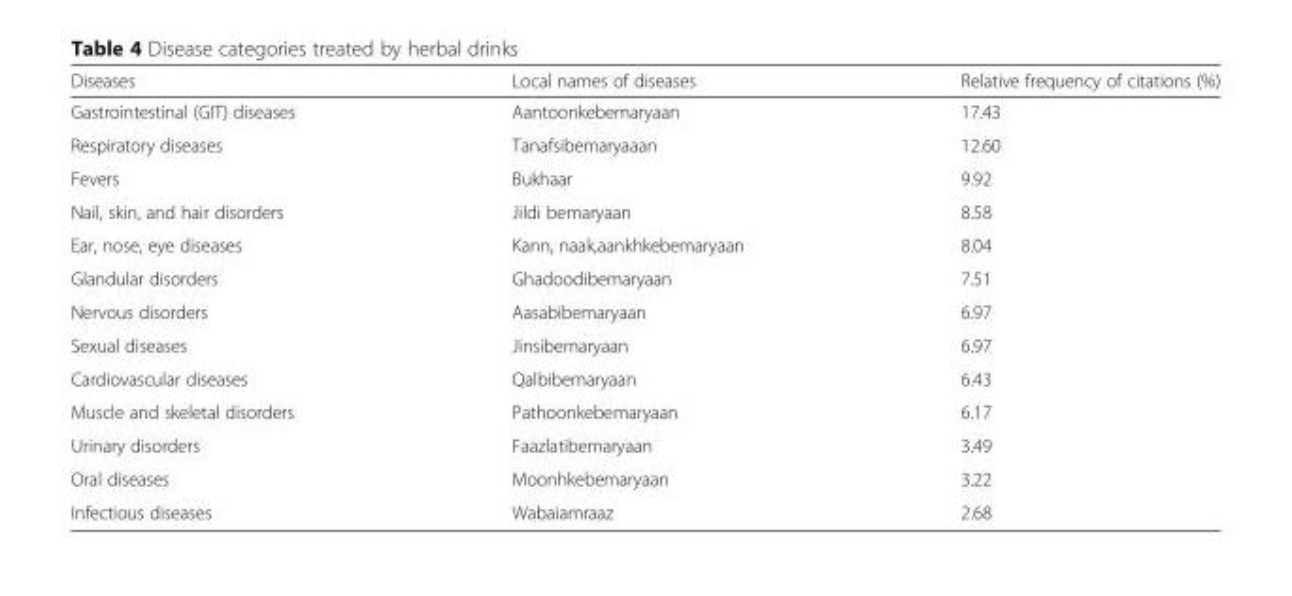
<table><thead><tr><td>Diseases</td><td>Local names of diseases</td><td>Relative frequency of citations (%)</td></tr></thead><tbody><tr><td>Gastrointestinal (GIT) diseases</td><td>Aantoonkebemaryaan</td><td>17.43</td></tr><tr><td>Respiratory diseases</td><td>Tanafsibemaryaaan</td><td>12.60</td></tr><tr><td>Fevers</td><td>Bukhaar</td><td>9.92</td></tr><tr><td>Nail, skin, and hair disorders</td><td>Jildi bemaryaan</td><td>8.58</td></tr><tr><td>Ear, nose, eye diseases</td><td>Kann, naak,aankhkebemaryaan</td><td>8.04</td></tr><tr><td>Glandular disorders</td><td>Ghadoodibemaryaan</td><td>7.51</td></tr><tr><td>Nervous disorders</td><td>Aasabibemaryaan</td><td>6.97</td></tr><tr><td>Sexual diseases</td><td>Jinsibemaryaan</td><td>6.97</td></tr><tr><td>Cardiovascular diseases</td><td>Qalbibemaryaan</td><td>6.43</td></tr><tr><td>Muscle and skeletal disorders</td><td>Pathoonkebemaryaan</td><td>6.17</td></tr><tr><td>Urinary disorders</td><td>Faazlatibemaryaan</td><td>3.49</td></tr><tr><td>Oral diseases</td><td>Moonhkebemaryaan</td><td>3.22</td></tr><tr><td>Infectious diseases</td><td>Wabaiamraaz</td><td>2.68</td></tr></tbody></table>